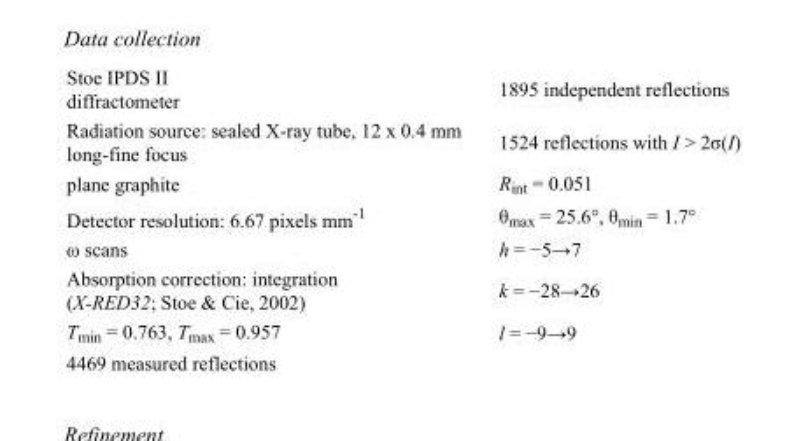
<table><tbody><tr><td>Stoe IPDS II diffractometer</td><td>1895 independent reflections</td></tr><tr><td>Radiation source: sealed X-ray tube, 12 x 0.4 mm long-fine focus</td><td>1524 reflections with I &gt; 2σ(I)</td></tr><tr><td>plane graphite</td><td>R<sub>int</sub> = 0.051</td></tr><tr><td>Detector resolution: 6.67 pixels mm<sup>-1</sup></td><td>θ<sub>max</sub> = 25.6°, θ<sub>min</sub> = 1.7°</td></tr><tr><td>ω scans</td><td>h = −5→7</td></tr><tr><td>Absorption correction: integration (X-RED32; Stoe &amp; Cie, 2002)</td><td>k = −28→26</td></tr><tr><td>T<sub>min</sub> = 0.763, T<sub>max</sub> = 0.957</td><td>l = −9→9</td></tr><tr><td>4469 measured reflections</td><td></td></tr></tbody></table>